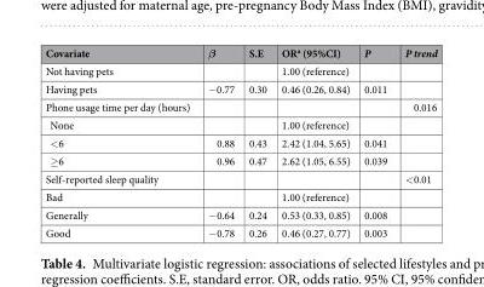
<table><thead><tr><td>Covariate</td><td>β</td><td>S.E</td><td>OR<sup>a</sup> (95%CI)</td><td>P</td><td>P trend</td></tr></thead><tbody><tr><td>Not having pets</td><td></td><td></td><td>1.00 (reference)</td><td></td><td></td></tr><tr><td>Having pets</td><td>−0.77</td><td>0.30</td><td>0.46 (0.26, 0.84)</td><td>0.011</td><td></td></tr><tr><td>Phone usage time per day (hours)</td><td></td><td></td><td></td><td></td><td>0.016</td></tr><tr><td>None</td><td></td><td></td><td>1.00 (reference)</td><td></td><td></td></tr><tr><td>&lt;6</td><td>0.88</td><td>0.43</td><td>2.42 (1.04, 5.65)</td><td>0.041</td><td></td></tr><tr><td>≥6</td><td>0.96</td><td>0.47</td><td>2.62 (1.05, 6.55)</td><td>0.039</td><td></td></tr><tr><td>Self-reported sleep quality</td><td></td><td></td><td></td><td></td><td>&lt;0.01</td></tr><tr><td>Bad</td><td></td><td></td><td>1.00 (reference)</td><td></td><td></td></tr><tr><td>Generally</td><td>−0.64</td><td>0.24</td><td>0.53 (0.33, 0.85)</td><td>0.008</td><td></td></tr><tr><td>Good</td><td>−0.78</td><td>0.26</td><td>0.46 (0.27, 0.77)</td><td>0.003</td><td></td></tr></tbody></table>